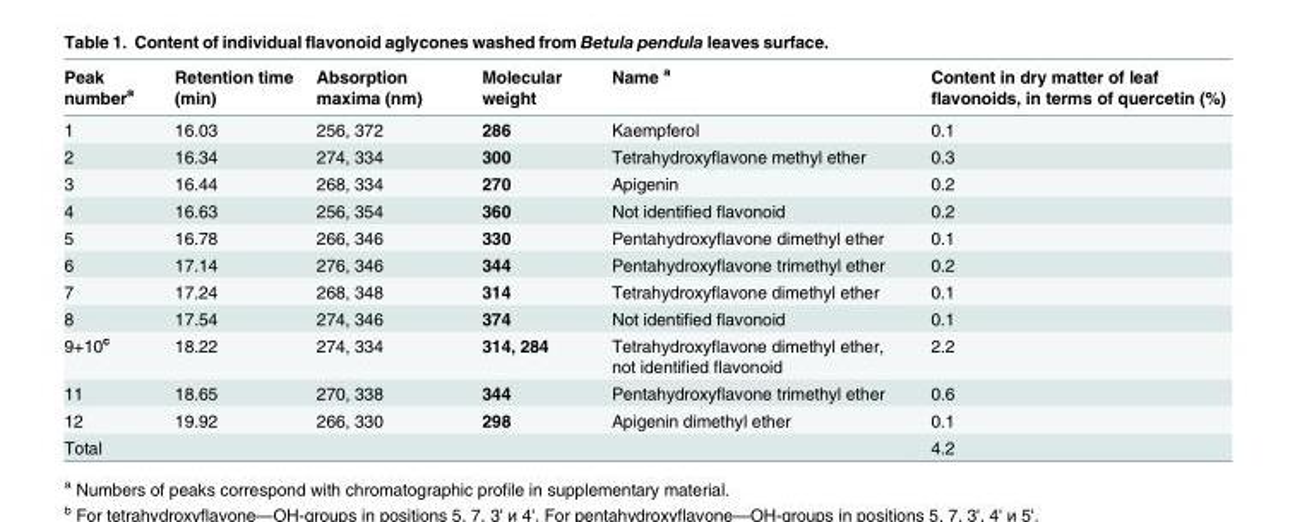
<table><thead><tr><td>Peak number<sup>a</sup></td><td>Retention time (min)</td><td>Absorption maxima (nm)</td><td>Molecular weight</td><td>Name <sup>a</sup></td><td>Content in dry matter of leaf flavonoids, in terms of quercetin (%)</td></tr></thead><tbody><tr><td>1</td><td>16.03</td><td>256, 372</td><td>286</td><td>Kaempferol</td><td>0.1</td></tr><tr><td>2</td><td>16.34</td><td>274, 334</td><td>300</td><td>Tetrahydroxyflavone methyl ether</td><td>0.3</td></tr><tr><td>3</td><td>16.44</td><td>268, 334</td><td>270</td><td>Apigenin</td><td>0.2</td></tr><tr><td>4</td><td>16.63</td><td>256, 354</td><td>360</td><td>Not identified flavonoid</td><td>0.2</td></tr><tr><td>5</td><td>16.78</td><td>266, 346</td><td>330</td><td>Pentahydroxyflavone dimethyl ether</td><td>0.1</td></tr><tr><td>6</td><td>17.14</td><td>276, 346</td><td>344</td><td>Pentahydroxyflavone trimethyl ether</td><td>0.2</td></tr><tr><td>7</td><td>17.24</td><td>268, 348</td><td>314</td><td>Tetrahydroxyflavone dimethyl ether</td><td>0.1</td></tr><tr><td>8</td><td>17.54</td><td>274, 346</td><td>374</td><td>Not identified flavonoid</td><td>0.1</td></tr><tr><td>9+10<sup>c</sup></td><td>18.22</td><td>274, 334</td><td>314, 284</td><td>Tetrahydroxyflavone dimethyl ether, not identified flavonoid</td><td>2.2</td></tr><tr><td>11</td><td>18.65</td><td>270, 338</td><td>344</td><td>Pentahydroxyflavone trimethyl ether</td><td>0.6</td></tr><tr><td>12</td><td>19.92</td><td>266, 330</td><td>298</td><td>Apigenin dimethyl ether</td><td>0.1</td></tr><tr><td colspan="5">Total</td><td>4.2</td></tr></tbody></table>